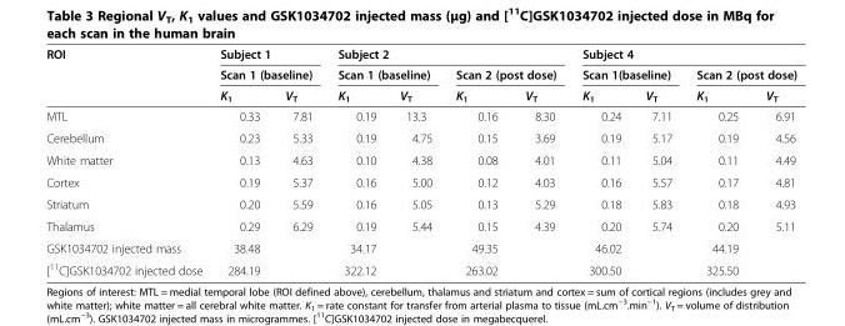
<table><thead><tr><td rowspan="3">ROI</td><td rowspan="2" colspan="2">Subject 1 Scan 1 (baseline)</td><td colspan="4">Subject 2</td><td colspan="4">Subject 4</td></tr><tr><td colspan="2">Scan 1 (baseline)</td><td colspan="2">Scan 2 (post dose)</td><td colspan="2">Scan 1(baseline)</td><td colspan="2">Scan 2 (post dose)</td></tr><tr><td>K<sub>1</sub></td><td>V<sub>T</sub></td><td>K<sub>1</sub></td><td>V<sub>T</sub></td><td>K<sub>1</sub></td><td>V<sub>T</sub></td><td>K<sub>1</sub></td><td>V<sub>T</sub></td><td>K<sub>1</sub></td><td>V<sub>T</sub></td></tr></thead><tbody><tr><td>MTL</td><td>0.33</td><td>7.81</td><td>0.19</td><td>13.3</td><td>0.16</td><td>8.30</td><td>0.24</td><td>7.11</td><td>0.25</td><td>6.91</td></tr><tr><td>Cerebellum</td><td>0.23</td><td>5.33</td><td>0.19</td><td>4.75</td><td>0.15</td><td>3.69</td><td>0.19</td><td>5.17</td><td>0.19</td><td>4.56</td></tr><tr><td>White matter</td><td>0.13</td><td>4.63</td><td>0.10</td><td>4.38</td><td>0.08</td><td>4.01</td><td>0.11</td><td>5.04</td><td>0.11</td><td>4.49</td></tr><tr><td>Cortex</td><td>0.19</td><td>5.37</td><td>0.16</td><td>5.00</td><td>0.12</td><td>4.03</td><td>0.16</td><td>5.57</td><td>0.17</td><td>4.81</td></tr><tr><td>Striatum</td><td>0.20</td><td>5.59</td><td>0.16</td><td>5.05</td><td>0.13</td><td>5.29</td><td>0.18</td><td>5.83</td><td>0.18</td><td>4.93</td></tr><tr><td>Thalamus</td><td>0.29</td><td>6.29</td><td>0.19</td><td>5.44</td><td>0.15</td><td>4.39</td><td>0.20</td><td>5.74</td><td>0.20</td><td>5.11</td></tr><tr><td>GSK1034702 injected mass</td><td>38.48</td><td></td><td>34.17</td><td></td><td>49.35</td><td></td><td>46.02</td><td></td><td>44.19</td><td></td></tr><tr><td>[<sup>11</sup>C]GSK1034702 injected dose</td><td>284.19</td><td></td><td>322.12</td><td></td><td>263.02</td><td></td><td>300.50</td><td></td><td>325.50</td><td></td></tr></tbody></table>